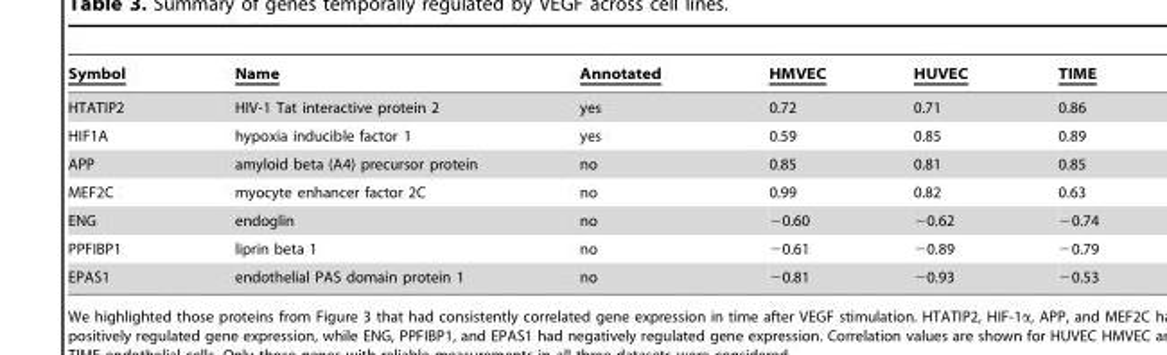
<table><thead><tr><td>Symbol</td><td>Name</td><td>Annotated</td><td>HMVEC</td><td>HUVEC</td><td>TIME</td></tr></thead><tbody><tr><td>HTATIP2</td><td>HIV-1 Tat interactive protein 2</td><td>yes</td><td>0.72</td><td>0.71</td><td>0.86</td></tr><tr><td>HIF1A</td><td>hypoxia inducible factor 1</td><td>yes</td><td>0.59</td><td>0.85</td><td>0.89</td></tr><tr><td>APP</td><td>amyloid beta (A4) precursor protein</td><td>no</td><td>0.85</td><td>0.81</td><td>0.85</td></tr><tr><td>MEF2C</td><td>myocyte enhancer factor 2C</td><td>no</td><td>0.99</td><td>0.82</td><td>0.63</td></tr><tr><td>ENG</td><td>endoglin</td><td>no</td><td>−0.60</td><td>−0.62</td><td>−0.74</td></tr><tr><td>PPFIBP1</td><td>liprin beta 1</td><td>no</td><td>−0.61</td><td>−0.89</td><td>−0.79</td></tr><tr><td>EPAS1</td><td>endothelial PAS domain protein 1</td><td>no</td><td>−0.81</td><td>−0.93</td><td>−0.53</td></tr></tbody></table>